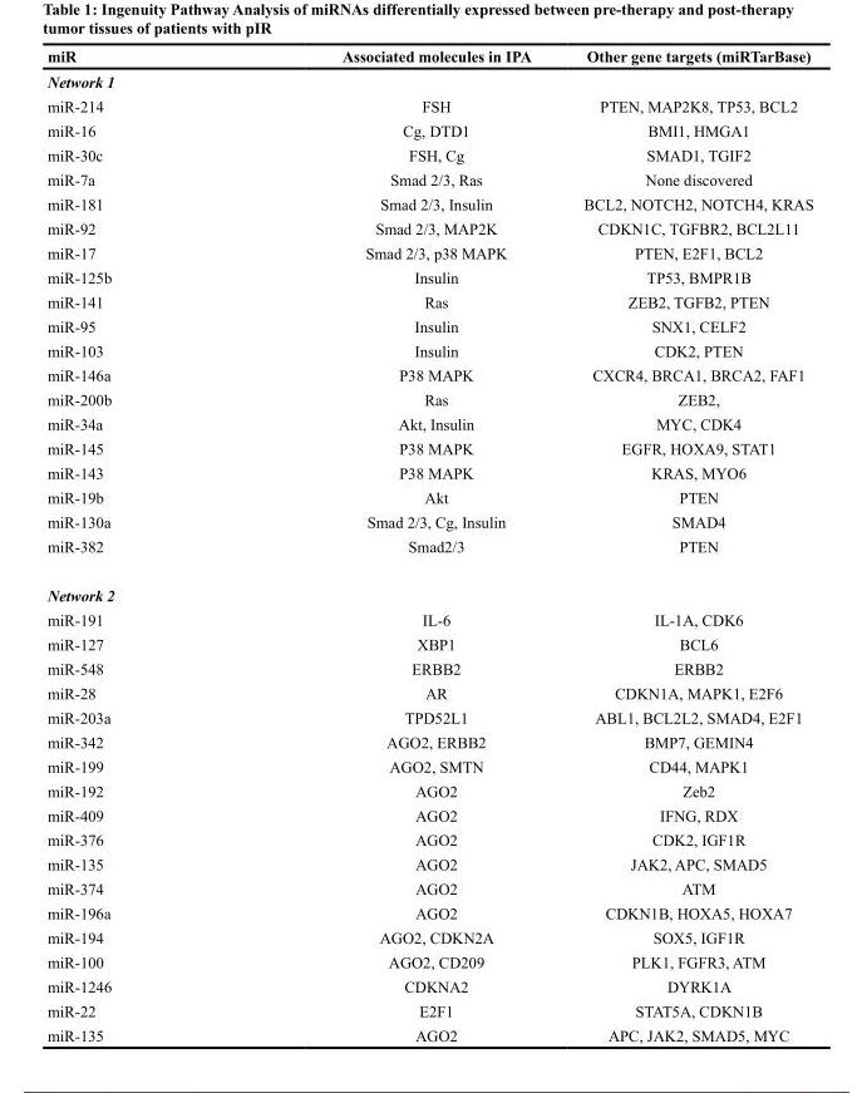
<table><thead><tr><td>miR</td><td>Associated molecules in IPA</td><td>Other gene targets (miRTarBase)</td></tr></thead><tbody><tr><td colspan="3">Network 1</td></tr><tr><td>miR-214</td><td>FSH</td><td>PTEN, MAP2K8, TP53, BCL2</td></tr><tr><td>miR-16</td><td>Cg, DTD1</td><td>BMI1, HMGA1</td></tr><tr><td>miR-30c</td><td>FSH, Cg</td><td>SMAD1, TGIF2</td></tr><tr><td>miR-7a</td><td>Smad 2/3, Ras</td><td>None discovered</td></tr><tr><td>miR-181</td><td>Smad 2/3, Insulin</td><td>BCL2, NOTCH2, NOTCH4, KRAS</td></tr><tr><td>miR-92</td><td>Smad 2/3, MAP2K</td><td>CDKN1C, TGFBR2, BCL2L11</td></tr><tr><td>miR-17</td><td>Smad 2/3, p38 MAPK</td><td>PTEN, E2F1, BCL2</td></tr><tr><td>miR-125b</td><td>Insulin</td><td>TP53, BMPR1B</td></tr><tr><td>miR-141</td><td>Ras</td><td>ZEB2, TGFB2, PTEN</td></tr><tr><td>miR-95</td><td>Insulin</td><td>SNX1, CELF2</td></tr><tr><td>miR-103</td><td>Insulin</td><td>CDK2, PTEN</td></tr><tr><td>miR-146a</td><td>P38 MAPK</td><td>CXCR4, BRCA1, BRCA2, FAF1</td></tr><tr><td>miR-200b</td><td>Ras</td><td>ZEB2,</td></tr><tr><td>miR-34a</td><td>Akt, Insulin</td><td>MYC, CDK4</td></tr><tr><td>miR-145</td><td>P38 MAPK</td><td>EGFR, HOXA9, STAT1</td></tr><tr><td>miR-143</td><td>P38 MAPK</td><td>KRAS, MYO6</td></tr><tr><td>miR-19b</td><td>Akt</td><td>PTEN</td></tr><tr><td>miR-130a</td><td>Smad 2/3, Cg, Insulin</td><td>SMAD4</td></tr><tr><td>miR-382</td><td>Smad2/3</td><td>PTEN</td></tr><tr><td colspan="3">Network 2</td></tr><tr><td>miR-191</td><td>IL-6</td><td>IL-1A, CDK6</td></tr><tr><td>miR-127</td><td>XBP1</td><td>BCL6</td></tr><tr><td>miR-548</td><td>ERBB2</td><td>ERBB2</td></tr><tr><td>miR-28</td><td>AR</td><td>CDKN1A, MAPK1, E2F6</td></tr><tr><td>miR-203a</td><td>TPD52L1</td><td>ABL1, BCL2L2, SMAD4, E2F1</td></tr><tr><td>miR-342</td><td>AGO2, ERBB2</td><td>BMP7, GEMIN4</td></tr><tr><td>miR-199</td><td>AGO2, SMTN</td><td>CD44, MAPK1</td></tr><tr><td>miR-192</td><td>AGO2</td><td>Zeb2</td></tr><tr><td>miR-409</td><td>AGO2</td><td>IFNG, RDX</td></tr><tr><td>miR-376</td><td>AGO2</td><td>CDK2, IGF1R</td></tr><tr><td>miR-135</td><td>AGO2</td><td>JAK2, APC, SMAD5</td></tr><tr><td>miR-374</td><td>AGO2</td><td>ATM</td></tr><tr><td>miR-196a</td><td>AGO2</td><td>CDKN1B, HOXA5, HOXA7</td></tr><tr><td>miR-194</td><td>AGO2, CDKN2A</td><td>SOX5, IGF1R</td></tr><tr><td>miR-100</td><td>AGO2, CD209</td><td>PLK1, FGFR3, ATM</td></tr><tr><td>miR-1246</td><td>CDKNA2</td><td>DYRK1A</td></tr><tr><td>miR-22</td><td>E2F1</td><td>STAT5A, CDKN1B</td></tr><tr><td>miR-135</td><td>AGO2</td><td>APC, JAK2, SMAD5, MYC</td></tr></tbody></table>